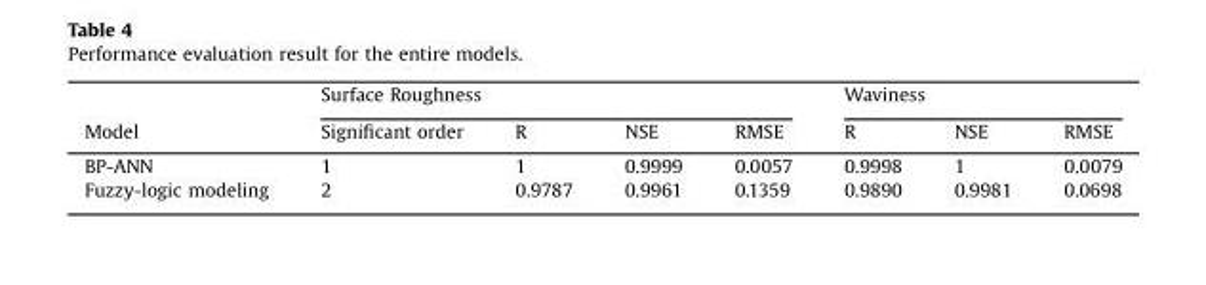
<table><thead><tr><td rowspan="2">Model</td><td colspan="4">Surface Roughness</td><td colspan="3">Waviness</td></tr><tr><td>Significant order</td><td>R</td><td>NSE</td><td>RMSE</td><td>R</td><td>NSE</td><td>RMSE</td></tr></thead><tbody><tr><td>BP-ANN</td><td>1</td><td>1</td><td>0.9999</td><td>0.0057</td><td>0.9998</td><td>1</td><td>0.0079</td></tr><tr><td>Fuzzy-logic modeling</td><td>2</td><td>0.9787</td><td>0.9961</td><td>0.1359</td><td>0.9890</td><td>0.9981</td><td>0.0698</td></tr></tbody></table>